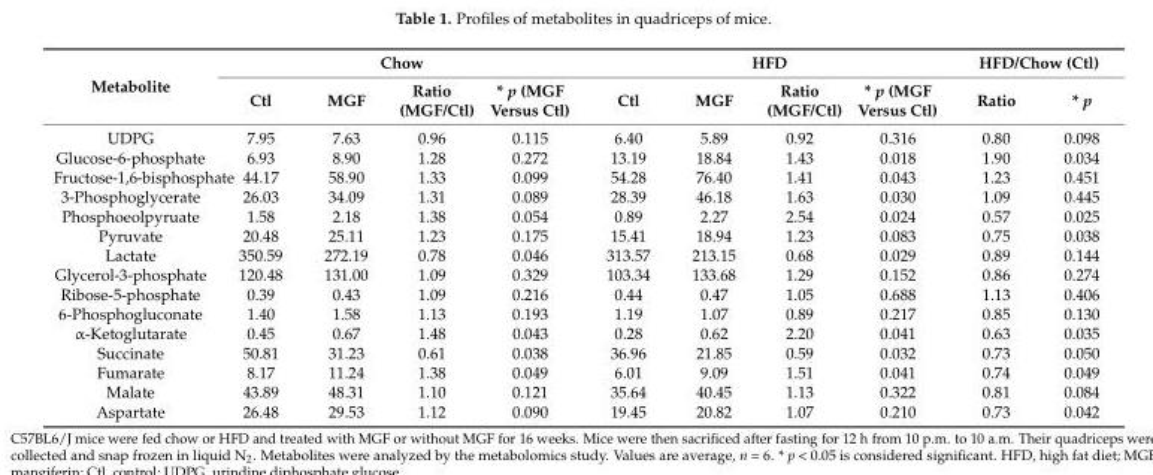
<table><thead><tr><td rowspan="2">Metabolite</td><td colspan="4">Chow</td><td colspan="4">HFD</td><td colspan="2">HFD/Chow (Ctl)</td></tr><tr><td>Ctl</td><td>MGF</td><td>Ratio (MGF/Ctl)</td><td>* p (MGF Versus Ctl)</td><td>Ctl</td><td>MGF</td><td>Ratio (MGF/Ctl)</td><td>* p (MGF Versus Ctl)</td><td>Ratio</td><td>* p</td></tr></thead><tbody><tr><td>UDPG</td><td>7.95</td><td>7.63</td><td>0.96</td><td>0.115</td><td>6.40</td><td>5.89</td><td>0.92</td><td>0.316</td><td>0.80</td><td>0.098</td></tr><tr><td>Glucose-6-phosphate</td><td>6.93</td><td>8.90</td><td>1.28</td><td>0.272</td><td>13.19</td><td>18.84</td><td>1.43</td><td>0.018</td><td>1.90</td><td>0.034</td></tr><tr><td>Fructose-1,6-bisphosphate</td><td>44.17</td><td>58.90</td><td>1.33</td><td>0.099</td><td>54.28</td><td>76.40</td><td>1.41</td><td>0.043</td><td>1.23</td><td>0.451</td></tr><tr><td>3-Phosphoglycerate</td><td>26.03</td><td>34.09</td><td>1.31</td><td>0.089</td><td>28.39</td><td>46.18</td><td>1.63</td><td>0.030</td><td>1.09</td><td>0.445</td></tr><tr><td>Phosphoeolpyruate</td><td>1.58</td><td>2.18</td><td>1.38</td><td>0.054</td><td>0.89</td><td>2.27</td><td>2.54</td><td>0.024</td><td>0.57</td><td>0.025</td></tr><tr><td>Pyruvate</td><td>20.48</td><td>25.11</td><td>1.23</td><td>0.175</td><td>15.41</td><td>18.94</td><td>1.23</td><td>0.083</td><td>0.75</td><td>0.038</td></tr><tr><td>Lactate</td><td>350.59</td><td>272.19</td><td>0.78</td><td>0.046</td><td>313.57</td><td>213.15</td><td>0.68</td><td>0.029</td><td>0.89</td><td>0.144</td></tr><tr><td>Glycerol-3-phosphate</td><td>120.48</td><td>131.00</td><td>1.09</td><td>0.329</td><td>103.34</td><td>133.68</td><td>1.29</td><td>0.152</td><td>0.86</td><td>0.274</td></tr><tr><td>Ribose-5-phosphate</td><td>0.39</td><td>0.43</td><td>1.09</td><td>0.216</td><td>0.44</td><td>0.47</td><td>1.05</td><td>0.688</td><td>1.13</td><td>0.406</td></tr><tr><td>6-Phosphogluconate</td><td>1.40</td><td>1.58</td><td>1.13</td><td>0.193</td><td>1.19</td><td>1.07</td><td>0.89</td><td>0.217</td><td>0.85</td><td>0.130</td></tr><tr><td>α-Ketoglutarate</td><td>0.45</td><td>0.67</td><td>1.48</td><td>0.043</td><td>0.28</td><td>0.62</td><td>2.20</td><td>0.041</td><td>0.63</td><td>0.035</td></tr><tr><td>Succinate</td><td>50.81</td><td>31.23</td><td>0.61</td><td>0.038</td><td>36.96</td><td>21.85</td><td>0.59</td><td>0.032</td><td>0.73</td><td>0.050</td></tr><tr><td>Fumarate</td><td>8.17</td><td>11.24</td><td>1.38</td><td>0.049</td><td>6.01</td><td>9.09</td><td>1.51</td><td>0.041</td><td>0.74</td><td>0.049</td></tr><tr><td>Malate</td><td>43.89</td><td>48.31</td><td>1.10</td><td>0.121</td><td>35.64</td><td>40.45</td><td>1.13</td><td>0.322</td><td>0.81</td><td>0.084</td></tr><tr><td>Aspartate</td><td>26.48</td><td>29.53</td><td>1.12</td><td>0.090</td><td>19.45</td><td>20.82</td><td>1.07</td><td>0.210</td><td>0.73</td><td>0.042</td></tr></tbody></table>